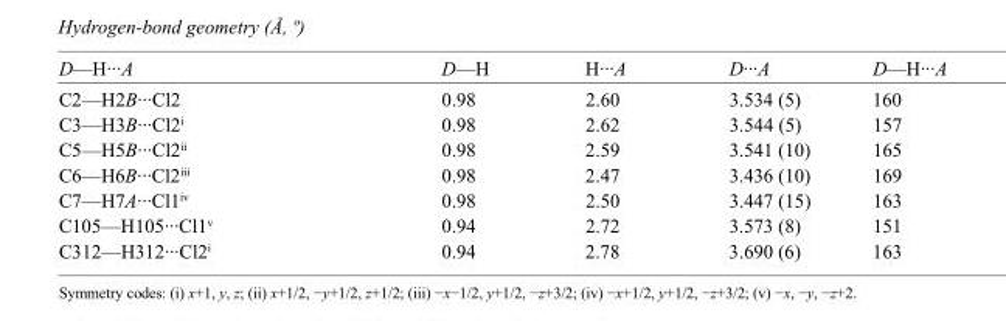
<table><tbody><tr><td>D—H···A</td><td>D—H</td><td>H···A</td><td>D···A</td><td>D—H···A</td></tr><tr><td>C2—H2B···Cl2</td><td>0.98</td><td>2.60</td><td>3.534 (5)</td><td>160</td></tr><tr><td>C3—H3B···Cl2<sup>i</sup></td><td>0.98</td><td>2.62</td><td>3.544 (5)</td><td>157</td></tr><tr><td>C5—H5B···Cl2<sup>ii</sup></td><td>0.98</td><td>2.59</td><td>3.541 (10)</td><td>165</td></tr><tr><td>C6—H6B···Cl2<sup>iii</sup></td><td>0.98</td><td>2.47</td><td>3.436 (10)</td><td>169</td></tr><tr><td>C7—H7A···Cl1<sup>iv</sup></td><td>0.98</td><td>2.50</td><td>3.447 (15)</td><td>163</td></tr><tr><td>C105—H105···Cl1<sup>v</sup></td><td>0.94</td><td>2.72</td><td>3.573 (8)</td><td>151</td></tr><tr><td>C312—H312···Cl2<sup>i</sup></td><td>0.94</td><td>2.78</td><td>3.690 (6)</td><td>163</td></tr></tbody></table>